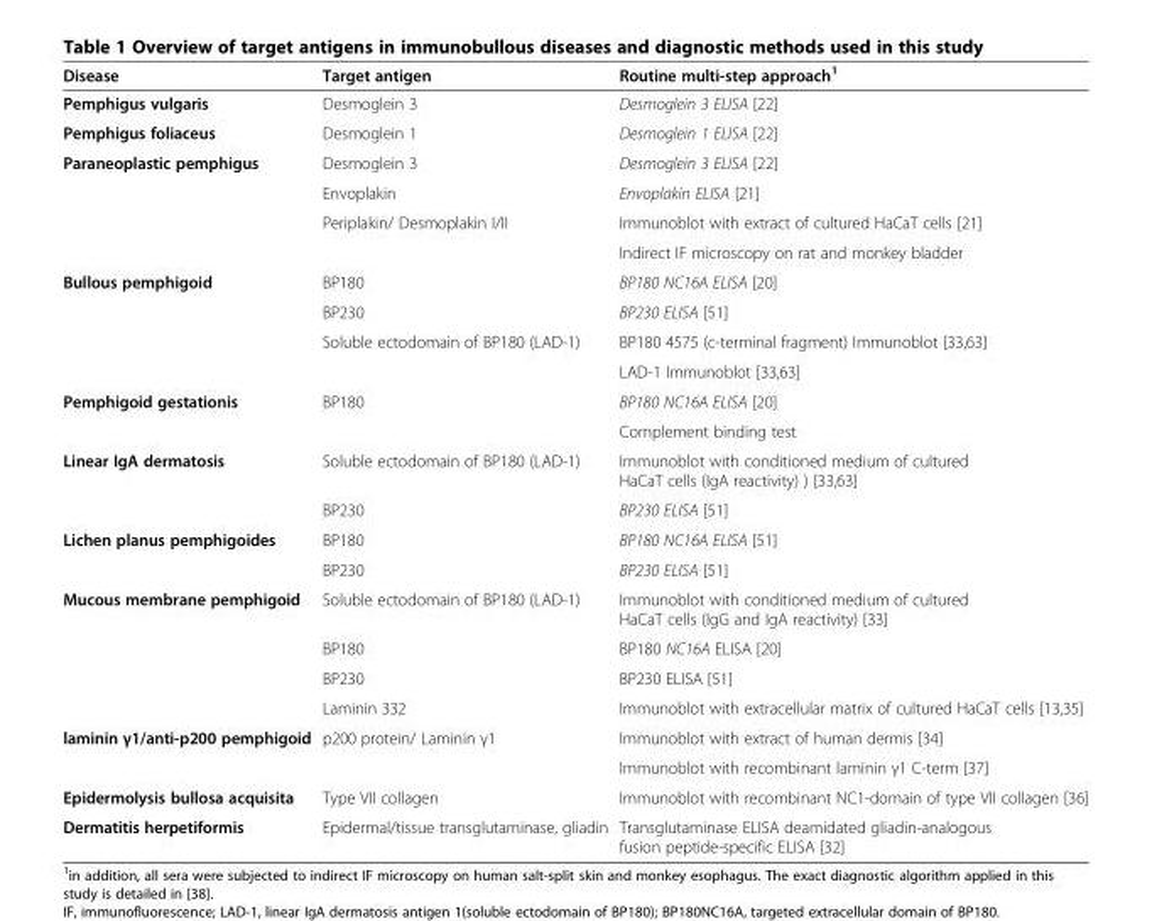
<table><thead><tr><td>Disease</td><td>Target antigen</td><td>Routine multi-step approach<sup>1</sup></td></tr></thead><tbody><tr><td>Pemphigus vulgaris</td><td>Desmoglein 3</td><td>Desmoglein 3 ELISA [22]</td></tr><tr><td>Pemphigus foliaceus</td><td>Desmoglein 1</td><td>Desmoglein 1 ELISA [22]</td></tr><tr><td rowspan="4">Paraneoplastic pemphigus</td><td>Desmoglein 3</td><td>Desmoglein 3 ELISA [22]</td></tr><tr><td>Envoplakin</td><td>Envoplakin ELISA [21]</td></tr><tr><td rowspan="2">Periplakin/ Desmoplakin I/II</td><td>Immunoblot with extract of cultured HaCaT cells [21]</td></tr><tr><td>Indirect IF microscopy on rat and monkey bladder</td></tr><tr><td rowspan="4">Bullous pemphigoid</td><td>BP180</td><td>BP180 NC16A ELISA [20]</td></tr><tr><td>BP230</td><td>BP230 ELISA [51]</td></tr><tr><td rowspan="2">Soluble ectodomain of BP180 (LAD-1)</td><td>BP180 4575 (c-terminal fragment) Immunoblot [33,63]</td></tr><tr><td>LAD-1 Immunoblot [33,63]</td></tr><tr><td rowspan="2">Pemphigoid gestationis</td><td rowspan="2">BP180</td><td>BP180 NC16A ELISA [20]</td></tr><tr><td>Complement binding test</td></tr><tr><td rowspan="2">Linear IgA dermatosis</td><td>Soluble ectodomain of BP180 (LAD-1)</td><td>Immunoblot with conditioned medium of cultured HaCaT cells (IgA reactivity) ) [33,63]</td></tr><tr><td>BP230</td><td>BP230 ELISA [51]</td></tr><tr><td rowspan="2">Lichen planus pemphigoides</td><td>BP180</td><td>BP180 NC16A ELISA [51]</td></tr><tr><td>BP230</td><td>BP230 ELISA [51]</td></tr><tr><td rowspan="4">Mucous membrane pemphigoid</td><td>Soluble ectodomain of BP180 (LAD-1)</td><td>Immunoblot with conditioned medium of cultured HaCaT cells (IgG and IgA reactivity) [33]</td></tr><tr><td>BP180</td><td>BP180 NC16A ELISA [20]</td></tr><tr><td>BP230</td><td>BP230 ELISA [51]</td></tr><tr><td>Laminin 332</td><td>Immunoblot with extracellular matrix of cultured HaCaT cells [13,35]</td></tr><tr><td rowspan="2">laminin γ1/anti-p200 pemphigoid</td><td rowspan="2">p200 protein/ Laminin γ1</td><td>Immunoblot with extract of human dermis [34]</td></tr><tr><td>Immunoblot with recombinant laminin γ1 C-term [37]</td></tr><tr><td>Epidermolysis bullosa acquisita</td><td>Type VII collagen</td><td>Immunoblot with recombinant NC1-domain of type VII collagen [36]</td></tr><tr><td>Dermatitis herpetiformis</td><td>Epidermal/tissue transglutaminase, gliadin</td><td>Transglutaminase ELISA deamidated gliadin-analogous fusion peptide-specific ELISA [32]</td></tr></tbody></table>